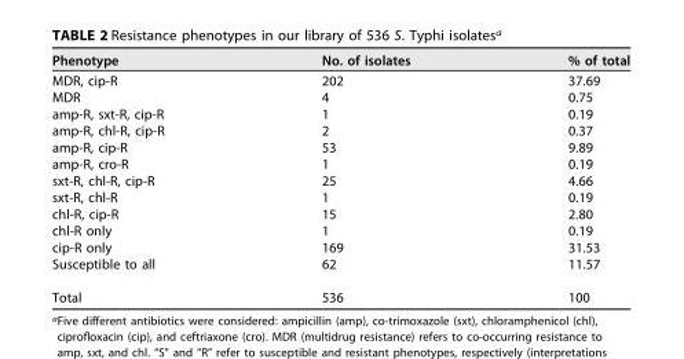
<table><thead><tr><td>Phenotype</td><td>No. of isolates</td><td>% of total</td></tr></thead><tbody><tr><td>MDR, cip-R</td><td>202</td><td>37.69</td></tr><tr><td>MDR</td><td>4</td><td>0.75</td></tr><tr><td>amp-R, sxt-R, cip-R</td><td>1</td><td>0.19</td></tr><tr><td>amp-R, chl-R, cip-R</td><td>2</td><td>0.37</td></tr><tr><td>amp-R, cip-R</td><td>53</td><td>9.89</td></tr><tr><td>amp-R, cro-R</td><td>1</td><td>0.19</td></tr><tr><td>sxt-R, chl-R, cip-R</td><td>25</td><td>4.66</td></tr><tr><td>sxt-R, chl-R</td><td>1</td><td>0.19</td></tr><tr><td>chl-R, cip-R</td><td>15</td><td>2.80</td></tr><tr><td>chl-R only</td><td>1</td><td>0.19</td></tr><tr><td>cip-R only</td><td>169</td><td>31.53</td></tr><tr><td>Susceptible to all</td><td>62</td><td>11.57</td></tr><tr><td>Total</td><td>536</td><td>100</td></tr></tbody></table>